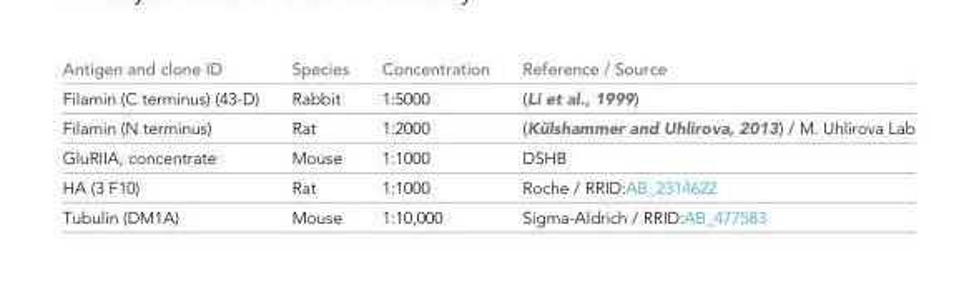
<table><thead><tr><td>Antigen and clone ID</td><td>Species</td><td>Concentration</td><td>Reference / Source</td></tr></thead><tbody><tr><td>Filamin (C terminus) (43-D)</td><td>Rabbit</td><td>1:5000</td><td>(Li et al., 1999)</td></tr><tr><td>Filamin (N terminus)</td><td>Rat</td><td>1:2000</td><td>(Ku¨lshammer and Uhlirova, 2013) / M. Uhlirova Lab</td></tr><tr><td>GluRIIA, concentrate</td><td>Mouse</td><td>1:1000</td><td>DSHB</td></tr><tr><td>HA (3 F10)</td><td>Rat</td><td>1:1000</td><td>Roche / RRID:AB_2314622</td></tr><tr><td>Tubulin (DM1A)</td><td>Mouse</td><td>1:10,000</td><td>Sigma-Aldrich / RRID:AB_477583</td></tr></tbody></table>